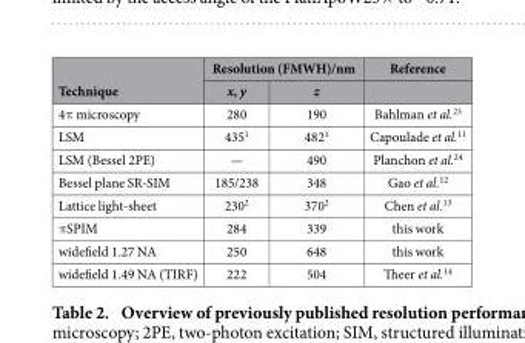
<table><thead><tr><td rowspan="2">Technique</td><td colspan="2">Resolution (FMWH)/nm</td><td rowspan="2">Reference</td></tr><tr><td>x, y</td><td>z</td></tr></thead><tbody><tr><td>4π microscopy</td><td>280</td><td>190</td><td>Bahlman et al.<sup>23</sup></td></tr><tr><td>LSM</td><td>435<sup>1</sup></td><td>482<sup>1</sup></td><td>Capoulade et al.<sup>11</sup></td></tr><tr><td>LSM (Bessel 2PE)</td><td>—</td><td>490</td><td>Planchon et al.<sup>24</sup></td></tr><tr><td>Bessel plane SR-SIM</td><td>185/238</td><td>348</td><td>Gao et al.<sup>12</sup></td></tr><tr><td>Lattice light-sheet</td><td>230<sup>2</sup></td><td>370<sup>2</sup></td><td>Chen et al.<sup>13</sup></td></tr><tr><td>π SPIM</td><td>284</td><td>339</td><td>this work</td></tr><tr><td>widefield 1.27 NA</td><td>250</td><td>648</td><td>this work</td></tr><tr><td>widefield 1.49 NA (TIRF)</td><td>222</td><td>504</td><td>Theer et al.<sup>14</sup></td></tr></tbody></table>